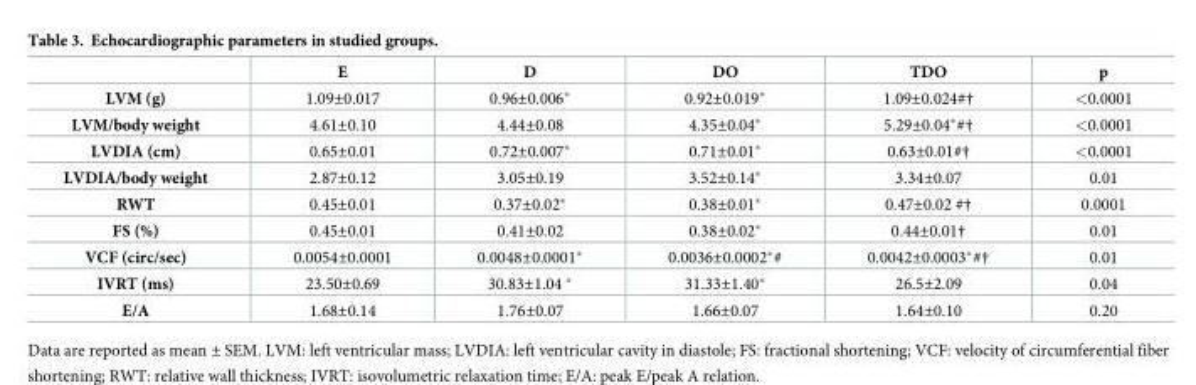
<table><thead><tr><td></td><td>E</td><td>D</td><td>DO</td><td>TDO</td><td>p</td></tr></thead><tbody><tr><td>LVM (g)</td><td>1.09±0.017</td><td>0.96±0.006*</td><td>0.92±0.019*</td><td>1.09±0.024#†</td><td>&lt;0.0001</td></tr><tr><td>LVM/body weight</td><td>4.61±0.10</td><td>4.44±0.08</td><td>4.35±0.04*</td><td>5.29±0.04*#†</td><td>&lt;0.0001</td></tr><tr><td>LVDIA (cm)</td><td>0.65±0.01</td><td>0.72±0.007*</td><td>0.71±0.01*</td><td>0.63±0.01#†</td><td>&lt;0.0001</td></tr><tr><td>LVDIA/body weight</td><td>2.87±0.12</td><td>3.05±0.19</td><td>3.52±0.14*</td><td>3.34±0.07</td><td>0.01</td></tr><tr><td>RWT</td><td>0.45±0.01</td><td>0.37±0.02*</td><td>0.38±0.01*</td><td>0.47±0.02 #†</td><td>0.0001</td></tr><tr><td>FS (%)</td><td>0.45±0.01</td><td>0.41±0.02</td><td>0.38±0.02*</td><td>0.44±0.01†</td><td>0.01</td></tr><tr><td>VCF (circ/sec)</td><td>0.0054±0.0001</td><td>0.0048±0.0001*</td><td>0.0036±0.0002*#</td><td>0.0042±0.0003*#†</td><td>0.01</td></tr><tr><td>IVRT (ms)</td><td>23.50±0.69</td><td>30.83±1.04 *</td><td>31.33±1.40*</td><td>26.5±2.09</td><td>0.04</td></tr><tr><td>E/A</td><td>1.68±0.14</td><td>1.76±0.07</td><td>1.66±0.07</td><td>1.64±0.10</td><td>0.20</td></tr></tbody></table>